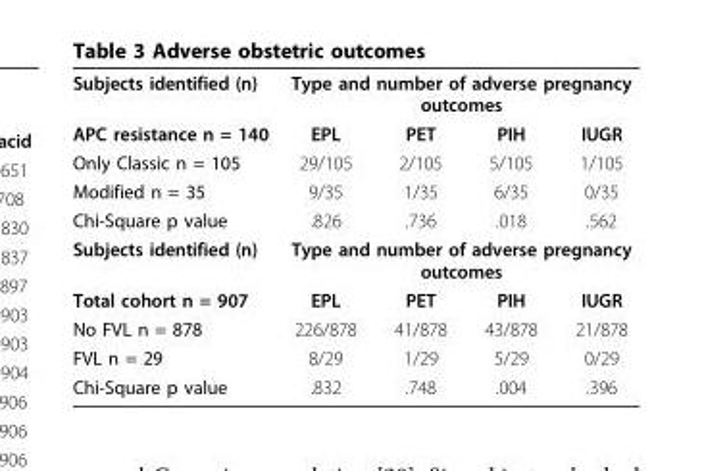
<table><tbody><tr><td>Subjects identified (n)</td><td colspan="4">Type and number of adverse pregnancy outcomes</td></tr><tr><td>APC resistance n = 140</td><td>EPL</td><td>PET</td><td>PIH</td><td>IUGR</td></tr><tr><td>Only Classic n = 105</td><td>29/105</td><td>2/105</td><td>5/105</td><td>1/105</td></tr><tr><td>Modified n = 35</td><td>9/35</td><td>1/35</td><td>6/35</td><td>0/35</td></tr><tr><td>Chi-Square p value</td><td>.826</td><td>.736</td><td>.018</td><td>.562</td></tr><tr><td>Subjects identified (n)</td><td colspan="4">Type and number of adverse pregnancy outcomes</td></tr><tr><td>Total cohort n = 907</td><td>EPL</td><td>PET</td><td>PIH</td><td>IUGR</td></tr><tr><td>No FVL n = 878</td><td>226/878</td><td>41/878</td><td>43/878</td><td>21/878</td></tr><tr><td>FVL n = 29</td><td>8/29</td><td>1/29</td><td>5/29</td><td>0/29</td></tr><tr><td>Chi-Square p value</td><td>.832</td><td>.748</td><td>.004</td><td>.396</td></tr></tbody></table>